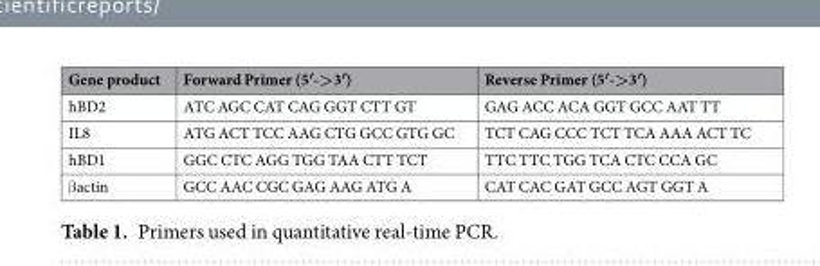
<table><thead><tr><td>Gene product</td><td>Forward Primer (5′-&gt;3′)</td><td>Reverse Primer (5′-&gt;3′)</td></tr></thead><tbody><tr><td>hBD2</td><td>ATC AGC CAT CAG GGT CTT GT</td><td>GAG ACC ACA GGT GCC AAT TT</td></tr><tr><td>IL8</td><td>ATG ACT TCC AAG CTG GCC GTG GC</td><td>TCT CAG CCC TCT TCA AAA ACT TC</td></tr><tr><td>hBD1</td><td>GGC CTC AGG TGG TAA CTT TCT</td><td>TTC TTC TGG TCA CTC CCA GC</td></tr><tr><td>βactin</td><td>GCC AAC CGC GAG AAG ATG A</td><td>CAT CAC GAT GCC AGT GGT A</td></tr></tbody></table>